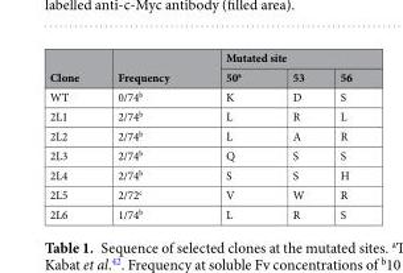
<table><thead><tr><td rowspan="2">Clone</td><td rowspan="2">Frequency</td><td colspan="3">Mutated site</td></tr><tr><td>50<sup>a</sup></td><td>53</td><td>56</td></tr></thead><tbody><tr><td>WT</td><td>0/74<sup>b</sup></td><td>K</td><td>D</td><td>S</td></tr><tr><td>2L1</td><td>2/74<sup>b</sup></td><td>L</td><td>R</td><td>L</td></tr><tr><td>2L2</td><td>2/74<sup>b</sup></td><td>L</td><td>A</td><td>R</td></tr><tr><td>2L3</td><td>2/74<sup>b</sup></td><td>Q</td><td>S</td><td>S</td></tr><tr><td>2L4</td><td>2/74<sup>b</sup></td><td>S</td><td>S</td><td>H</td></tr><tr><td>2L5</td><td>2/72<sup>c</sup></td><td>V</td><td>W</td><td>R</td></tr><tr><td>2L6</td><td>1/74<sup>b</sup></td><td>L</td><td>R</td><td>S</td></tr></tbody></table>